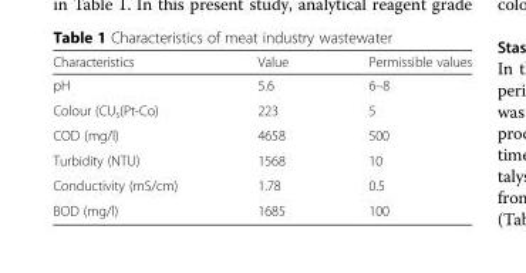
<table><thead><tr><td>Characteristics</td><td>Value</td><td>Permissible values</td></tr></thead><tbody><tr><td>pH</td><td>5.6</td><td>6–8</td></tr><tr><td>Colour (CU<sub>s</sub>(Pt-Co)</td><td>223</td><td>5</td></tr><tr><td>COD (mg/l)</td><td>4658</td><td>500</td></tr><tr><td>Turbidity (NTU)</td><td>1568</td><td>10</td></tr><tr><td>Conductivity (mS/cm)</td><td>1.78</td><td>0.5</td></tr><tr><td>BOD (mg/l)</td><td>1685</td><td>100</td></tr></tbody></table>